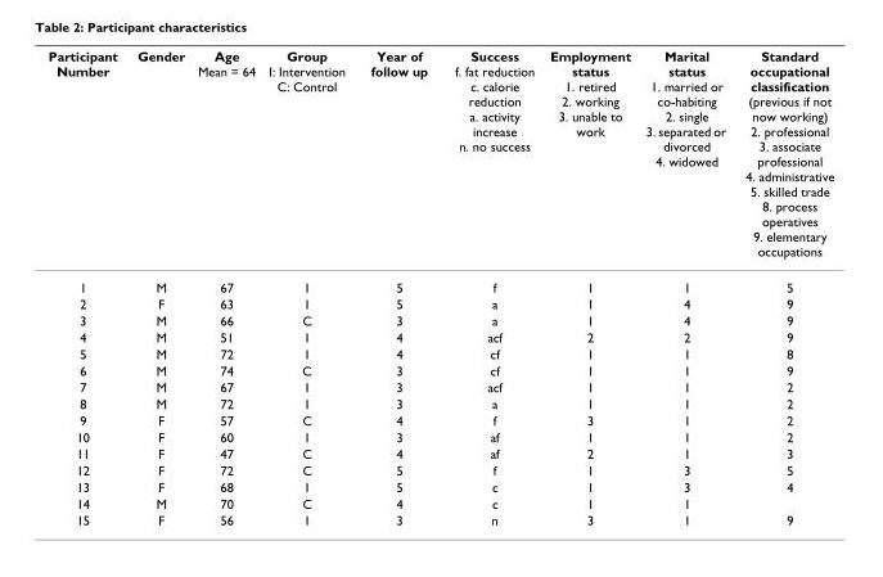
<table><thead><tr><td>Participant Number</td><td>Gender</td><td>Age Mean = 64</td><td>Group I: Intervention C: Control</td><td>Year of follow up</td><td>Success f. fat reduction c. calorie reduction a. activity increase n. no success</td><td>Employment status 1. retired 2. working 3. unable to work</td><td>Marital status 1. married or co-habiting 2. single 3. separated or divorced 4. widowed</td><td>Standard occupational classification (previous if not now working) 2. professional 3. associate professional 4. administrative 5. skilled trade 8. process operatives 9. elementary occupations</td></tr></thead><tbody><tr><td>1</td><td>M</td><td>67</td><td>I</td><td>5</td><td>f</td><td>1</td><td>1</td><td>5</td></tr><tr><td>2</td><td>F</td><td>63</td><td>I</td><td>5</td><td>a</td><td>1</td><td>4</td><td>9</td></tr><tr><td>3</td><td>M</td><td>66</td><td>C</td><td>3</td><td>a</td><td>1</td><td>4</td><td>9</td></tr><tr><td>4</td><td>M</td><td>51</td><td>I</td><td>4</td><td>acf</td><td>2</td><td>2</td><td>9</td></tr><tr><td>5</td><td>M</td><td>72</td><td>I</td><td>4</td><td>cf</td><td>1</td><td>1</td><td>8</td></tr><tr><td>6</td><td>M</td><td>74</td><td>C</td><td>3</td><td>cf</td><td>1</td><td>1</td><td>9</td></tr><tr><td>7</td><td>M</td><td>67</td><td>I</td><td>3</td><td>acf</td><td>1</td><td>1</td><td>2</td></tr><tr><td>8</td><td>M</td><td>72</td><td>I</td><td>3</td><td>a</td><td>1</td><td>1</td><td>2</td></tr><tr><td>9</td><td>F</td><td>57</td><td>C</td><td>4</td><td>f</td><td>3</td><td>1</td><td>2</td></tr><tr><td>10</td><td>F</td><td>60</td><td>I</td><td>3</td><td>af</td><td>1</td><td>1</td><td>2</td></tr><tr><td>11</td><td>F</td><td>47</td><td>C</td><td>4</td><td>af</td><td>2</td><td>1</td><td>3</td></tr><tr><td>12</td><td>F</td><td>72</td><td>C</td><td>5</td><td>f</td><td>1</td><td>3</td><td>5</td></tr><tr><td>13</td><td>F</td><td>68</td><td>I</td><td>5</td><td>c</td><td>1</td><td>3</td><td>4</td></tr><tr><td>14</td><td>M</td><td>70</td><td>C</td><td>4</td><td>c</td><td>1</td><td>1</td><td></td></tr><tr><td>15</td><td>F</td><td>56</td><td>I</td><td>3</td><td>n</td><td>3</td><td>1</td><td>9</td></tr></tbody></table>